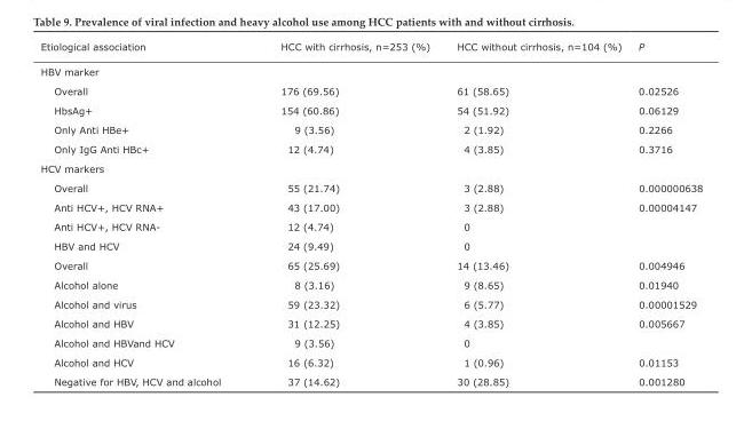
<table><thead><tr><td>Etiological association</td><td>HCC with cirrhosis, n=253 (%)</td><td>HCC without cirrhosis, n=104 (%)</td><td>P</td></tr></thead><tbody><tr><td colspan="4">HBV marker</td></tr><tr><td>Overall</td><td>176 (69.56)</td><td>61 (58.65)</td><td>0.02526</td></tr><tr><td>HbsAg+</td><td>154 (60.86)</td><td>54 (51.92)</td><td>0.06129</td></tr><tr><td>Only Anti HBe+</td><td>9 (3.56)</td><td>2 (1.92)</td><td>0.2266</td></tr><tr><td>Only IgG Anti HBc+</td><td>12 (4.74)</td><td>4 (3.85)</td><td>0.3716</td></tr><tr><td colspan="4">HCV markers</td></tr><tr><td>Overall</td><td>55 (21.74)</td><td>3 (2.88)</td><td>0.000000638</td></tr><tr><td>Anti HCV+, HCV RNA+</td><td>43 (17.00)</td><td>3 (2.88)</td><td>0.00004147</td></tr><tr><td>Anti HCV+, HCV RNA-</td><td>12 (4.74)</td><td>0</td><td></td></tr><tr><td>HBV and HCV</td><td>24 (9.49)</td><td>0</td><td></td></tr><tr><td>Overall</td><td>65 (25.69)</td><td>14 (13.46)</td><td>0.004946</td></tr><tr><td>Alcohol alone</td><td>8 (3.16)</td><td>9 (8.65)</td><td>0.01940</td></tr><tr><td>Alcohol and virus</td><td>59 (23.32)</td><td>6 (5.77)</td><td>0.00001529</td></tr><tr><td>Alcohol and HBV</td><td>31 (12.25)</td><td>4 (3.85)</td><td>0.005667</td></tr><tr><td>Alcohol and HBVand HCV</td><td>9 (3.56)</td><td>0</td><td></td></tr><tr><td>Alcohol and HCV</td><td>16 (6.32)</td><td>1 (0.96)</td><td>0.01153</td></tr><tr><td>Negative for HBV, HCV and alcohol</td><td>37 (14.62)</td><td>30 (28.85)</td><td>0.001280</td></tr></tbody></table>